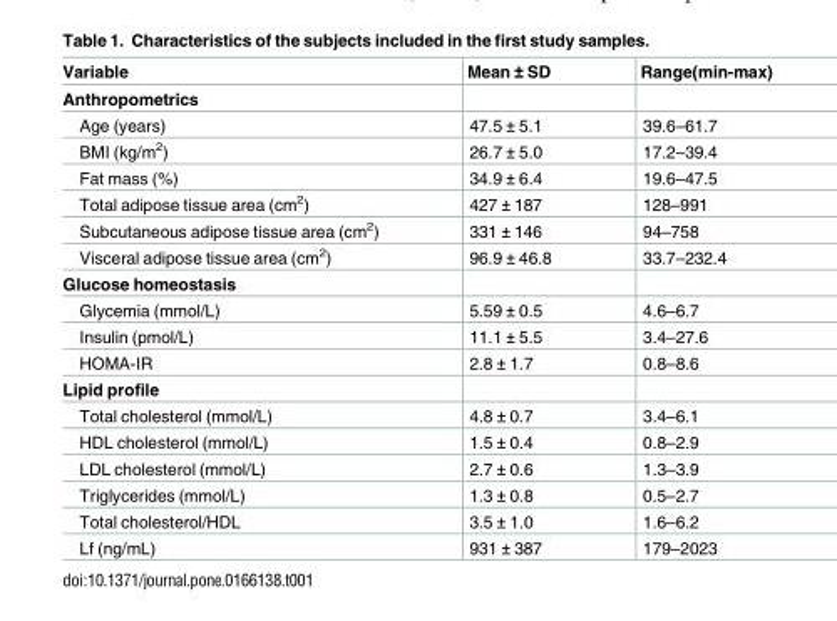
<table><thead><tr><td>Variable</td><td>Mean ± SD</td><td>Range(min-max)</td></tr></thead><tbody><tr><td colspan="3">Anthropometrics</td></tr><tr><td>Age (years)</td><td>47.5 ± 5.1</td><td>39.6–61.7</td></tr><tr><td>BMI (kg/m<sup>2</sup>)</td><td>26.7 ± 5.0</td><td>17.2–39.4</td></tr><tr><td>Fat mass (%)</td><td>34.9 ± 6.4</td><td>19.6–47.5</td></tr><tr><td>Total adipose tissue area (cm<sup>2</sup>)</td><td>427 ± 187</td><td>128–991</td></tr><tr><td>Subcutaneous adipose tissue area (cm<sup>2</sup>)</td><td>331 ± 146</td><td>94–758</td></tr><tr><td>Visceral adipose tissue area (cm<sup>2</sup>)</td><td>96.9 ± 46.8</td><td>33.7–232.4</td></tr><tr><td colspan="3">Glucose homeostasis</td></tr><tr><td>Glycemia (mmol/L)</td><td>5.59 ± 0.5</td><td>4.6–6.7</td></tr><tr><td>Insulin (pmol/L)</td><td>11.1 ± 5.5</td><td>3.4–27.6</td></tr><tr><td>HOMA-IR</td><td>2.8 ± 1.7</td><td>0.8–8.6</td></tr><tr><td colspan="3">Lipid profile</td></tr><tr><td>Total cholesterol (mmol/L)</td><td>4.8 ± 0.7</td><td>3.4–6.1</td></tr><tr><td>HDL cholesterol (mmol/L)</td><td>1.5 ± 0.4</td><td>0.8–2.9</td></tr><tr><td>LDL cholesterol (mmol/L)</td><td>2.7 ± 0.6</td><td>1.3–3.9</td></tr><tr><td>Triglycerides (mmol/L)</td><td>1.3 ± 0.8</td><td>0.5–2.7</td></tr><tr><td>Total cholesterol/HDL</td><td>3.5 ± 1.0</td><td>1.6–6.2</td></tr><tr><td>Lf (ng/mL)</td><td>931 ± 387</td><td>179–2023</td></tr></tbody></table>